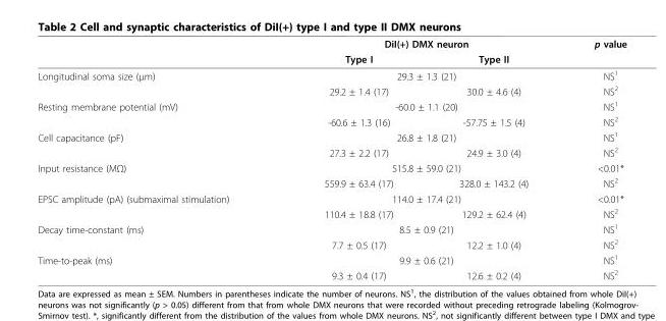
<table><thead><tr><td rowspan="2"></td><td colspan="2">DiI(+) DMX neuron</td><td rowspan="2">p value</td></tr><tr><td>Type I</td><td>Type II</td></tr></thead><tbody><tr><td rowspan="2">Longitudinal soma size (μm)</td><td colspan="2">29.3 ± 1.3 (21)</td><td>NS<sup>1</sup></td></tr><tr><td>29.2 ± 1.4 (17)</td><td>30.0 ± 4.6 (4)</td><td>NS<sup>2</sup></td></tr><tr><td rowspan="2">Resting membrane potential (mV)</td><td colspan="2">-60.0 ± 1.1 (20)</td><td>NS<sup>1</sup></td></tr><tr><td>-60.6 ± 1.3 (16)</td><td>-57.75 ± 1.5 (4)</td><td>NS<sup>2</sup></td></tr><tr><td rowspan="2">Cell capacitance (pF)</td><td colspan="2">26.8 ± 1.8 (21)</td><td>NS<sup>1</sup></td></tr><tr><td>27.3 ± 2.2 (17)</td><td>24.9 ± 3.0 (4)</td><td>NS<sup>2</sup></td></tr><tr><td rowspan="2">Input resistance (MΩ)</td><td colspan="2">515.8 ± 59.0 (21)</td><td>&lt;0.01*</td></tr><tr><td>559.9 ± 63.4 (17)</td><td>328.0 ± 143.2 (4)</td><td>NS<sup>2</sup></td></tr><tr><td rowspan="2">EPSC amplitude (pA) (submaximal stimulation)</td><td colspan="2">114.0 ± 17.4 (21)</td><td>&lt;0.01*</td></tr><tr><td>110.4 ± 18.8 (17)</td><td>129.2 ± 62.4 (4)</td><td>NS<sup>2</sup></td></tr><tr><td rowspan="2">Decay time-constant (ms)</td><td colspan="2">8.5 ± 0.9 (21)</td><td>NS<sup>1</sup></td></tr><tr><td>7.7 ± 0.5 (17)</td><td>12.2 ± 1.0 (4)</td><td>NS<sup>2</sup></td></tr><tr><td rowspan="2">Time-to-peak (ms)</td><td colspan="2">9.9 ± 0.6 (21)</td><td>NS<sup>1</sup></td></tr><tr><td>9.3 ± 0.4 (17)</td><td>12.6 ± 0.2 (4)</td><td>NS<sup>2</sup></td></tr></tbody></table>